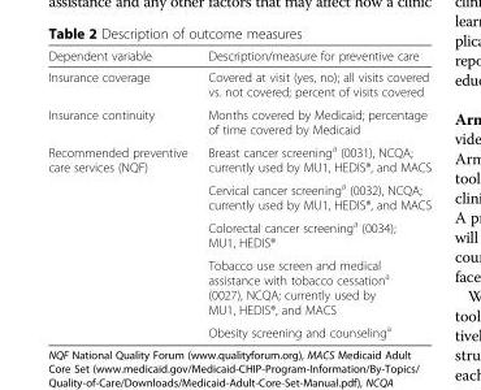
<table><thead><tr><td>Dependent variable</td><td>Description/measure for preventive care</td></tr></thead><tbody><tr><td>Insurance coverage</td><td>Covered at visit (yes, no); all visits covered vs. not covered; percent of visits covered</td></tr><tr><td>Insurance continuity</td><td>Months covered by Medicaid; percentage of time covered by Medicaid</td></tr><tr><td rowspan="5">Recommended preventive care services (NQF)</td><td>Breast cancer screening<sup>a</sup> (0031), NCQA; currently used by MU1, HEDIS®, and MACS</td></tr><tr><td>Cervical cancer screening<sup>a</sup> (0032), NCQA; currently used by MU1, HEDIS®, and MACS</td></tr><tr><td>Colorectal cancer screening<sup>a</sup> (0034); MU1, HEDIS®</td></tr><tr><td>Tobacco use screen and medical assistance with tobacco cessation<sup>a</sup> (0027), NCQA; currently used by MU1, HEDIS®, and MACS</td></tr><tr><td>Obesity screening and counseling<sup>a</sup></td></tr></tbody></table>